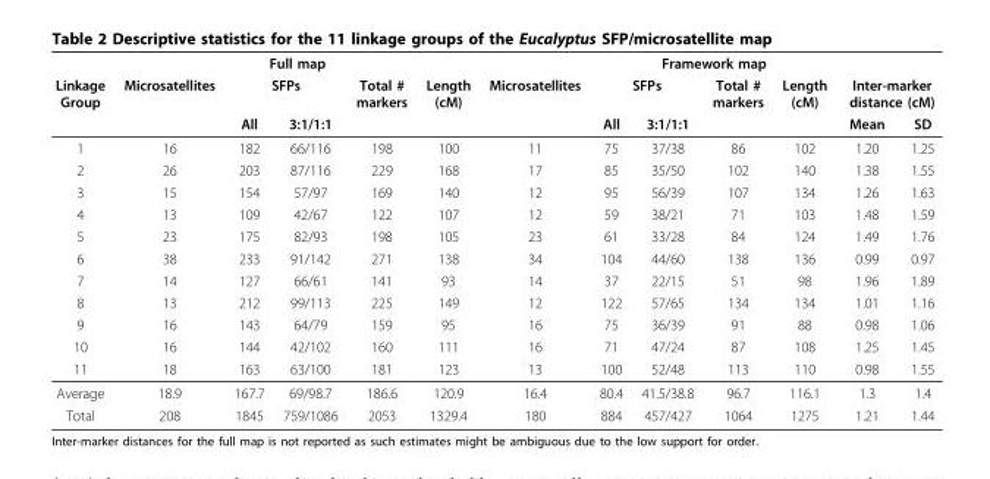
<table><thead><tr><td rowspan="3">Linkage Group</td><td colspan="5">Full map</td><td colspan="7">Framework map</td></tr><tr><td rowspan="2">Microsatellites</td><td colspan="2">SFPs</td><td rowspan="2">Total # markers</td><td rowspan="2">Length (cM)</td><td rowspan="2">Microsatellites</td><td colspan="2">SFPs</td><td rowspan="2">Total # markers</td><td rowspan="2">Length (cM)</td><td colspan="2">Inter-marker distance (cM)</td></tr><tr><td>All</td><td>3:1/1:1</td><td>All</td><td>3:1/1:1</td><td>Mean</td><td>SD</td></tr></thead><tbody><tr><td>1</td><td>16</td><td>182</td><td>66/116</td><td>198</td><td>100</td><td>11</td><td>75</td><td>37/38</td><td>86</td><td>102</td><td>1.20</td><td>1.25</td></tr><tr><td>2</td><td>26</td><td>203</td><td>87/116</td><td>229</td><td>168</td><td>17</td><td>85</td><td>35/50</td><td>102</td><td>140</td><td>1.38</td><td>1.55</td></tr><tr><td>3</td><td>15</td><td>154</td><td>57/97</td><td>169</td><td>140</td><td>12</td><td>95</td><td>56/39</td><td>107</td><td>134</td><td>1.26</td><td>1.63</td></tr><tr><td>4</td><td>13</td><td>109</td><td>42/67</td><td>122</td><td>107</td><td>12</td><td>59</td><td>38/21</td><td>71</td><td>103</td><td>1.48</td><td>1.59</td></tr><tr><td>5</td><td>23</td><td>175</td><td>82/93</td><td>198</td><td>105</td><td>23</td><td>61</td><td>33/28</td><td>84</td><td>124</td><td>1.49</td><td>1.76</td></tr><tr><td>6</td><td>38</td><td>233</td><td>91/142</td><td>271</td><td>138</td><td>34</td><td>104</td><td>44/60</td><td>138</td><td>136</td><td>0.99</td><td>0.97</td></tr><tr><td>7</td><td>14</td><td>127</td><td>66/61</td><td>141</td><td>93</td><td>14</td><td>37</td><td>22/15</td><td>51</td><td>98</td><td>1.96</td><td>1.89</td></tr><tr><td>8</td><td>13</td><td>212</td><td>99/113</td><td>225</td><td>149</td><td>12</td><td>122</td><td>57/65</td><td>134</td><td>134</td><td>1.01</td><td>1.16</td></tr><tr><td>9</td><td>16</td><td>143</td><td>64/79</td><td>159</td><td>95</td><td>16</td><td>75</td><td>36/39</td><td>91</td><td>88</td><td>0.98</td><td>1.06</td></tr><tr><td>10</td><td>16</td><td>144</td><td>42/102</td><td>160</td><td>111</td><td>16</td><td>71</td><td>47/24</td><td>87</td><td>108</td><td>1.25</td><td>1.45</td></tr><tr><td>11</td><td>18</td><td>163</td><td>63/100</td><td>181</td><td>123</td><td>13</td><td>100</td><td>52/48</td><td>113</td><td>110</td><td>0.98</td><td>1.55</td></tr><tr><td>Average</td><td>18.9</td><td>167.7</td><td>69/98.7</td><td>186.6</td><td>120.9</td><td>16.4</td><td>80.4</td><td>41.5/38.8</td><td>96.7</td><td>116.1</td><td>1.3</td><td>1.4</td></tr><tr><td>Total</td><td>208</td><td>1845</td><td>759/1086</td><td>2053</td><td>1329.4</td><td>180</td><td>884</td><td>457/427</td><td>1064</td><td>1275</td><td>1.21</td><td>1.44</td></tr></tbody></table>